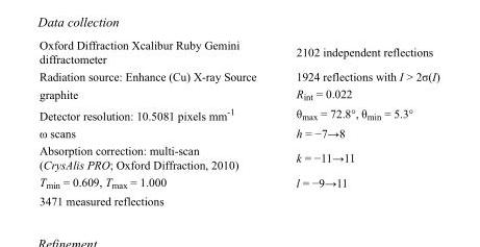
<table><tbody><tr><td>Oxford Diffraction Xcalibur Ruby Gemini diffractometer</td><td>2102 independent reflections</td></tr><tr><td>Radiation source: Enhance (Cu) X-ray Source</td><td>1924 reflections with I &gt; 2σ(I)</td></tr><tr><td>graphite</td><td>R<sub>int</sub> = 0.022</td></tr><tr><td>Detector resolution: 10.5081 pixels mm<sup>-1</sup></td><td>θ<sub>max</sub> = 72.8°, θ<sub>min</sub> = 5.3°</td></tr><tr><td>ω scans</td><td>h = −7→8</td></tr><tr><td>Absorption correction: multi-scan (CrysAlis PRO; Oxford Diffraction, 2010)</td><td>k = −11→11</td></tr><tr><td>T<sub>min</sub> = 0.609, T<sub>max</sub> = 1.000</td><td>l = −9→11</td></tr><tr><td>3471 measured reflections</td><td></td></tr></tbody></table>